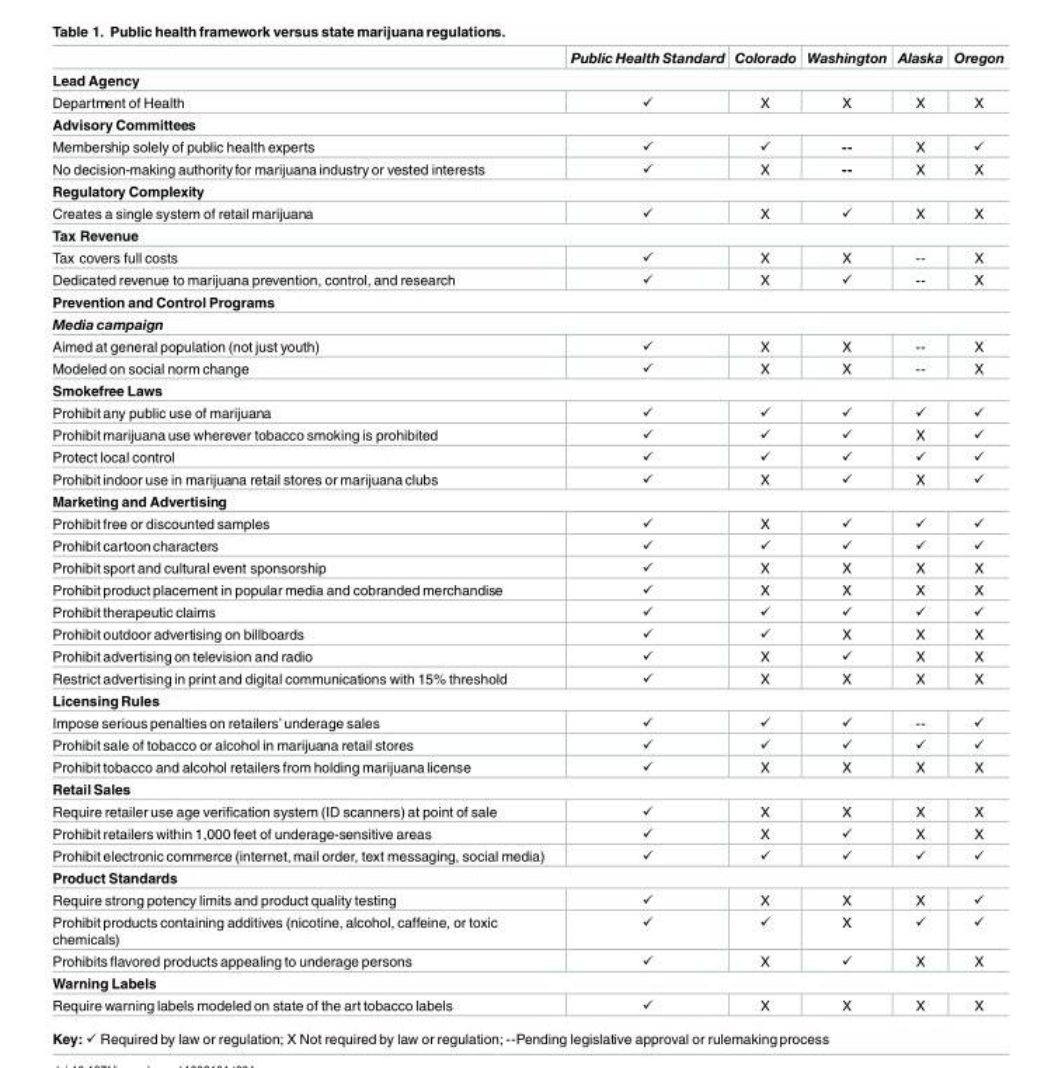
<table><thead><tr><td></td><td>Public Health Standard</td><td>Colorado</td><td>Washington</td><td>Alaska</td><td>Oregon</td></tr></thead><tbody><tr><td colspan="6">Lead Agency</td></tr><tr><td>Department of Health</td><td>✓</td><td>X</td><td>X</td><td>X</td><td>X</td></tr><tr><td colspan="6">Advisory Committees</td></tr><tr><td>Membership solely of public health experts</td><td>✓</td><td>✓</td><td>--</td><td>X</td><td>✓</td></tr><tr><td>No decision-making authority for marijuana industry or vested interests</td><td>✓</td><td>X</td><td>--</td><td>X</td><td>X</td></tr><tr><td colspan="6">Regulatory Complexity</td></tr><tr><td>Creates a single system of retail marijuana</td><td>✓</td><td>X</td><td>✓</td><td>X</td><td>X</td></tr><tr><td colspan="6">Tax Revenue</td></tr><tr><td>Tax covers full costs</td><td>✓</td><td>X</td><td>X</td><td>--</td><td>X</td></tr><tr><td>Dedicated revenue to marijuana prevention, control, and research</td><td>✓</td><td>X</td><td>✓</td><td>--</td><td>X</td></tr><tr><td colspan="6">Prevention and Control Programs</td></tr><tr><td colspan="6">Media campaign</td></tr><tr><td>Aimed at general population (not just youth)</td><td>✓</td><td>X</td><td>X</td><td>--</td><td>X</td></tr><tr><td>Modeled on social norm change</td><td>✓</td><td>X</td><td>X</td><td>--</td><td>X</td></tr><tr><td colspan="6">Smokefree Laws</td></tr><tr><td>Prohibit any public use of marijuana</td><td>✓</td><td>✓</td><td>✓</td><td>✓</td><td>✓</td></tr><tr><td>Prohibit marijuana use wherever tobacco smoking is prohibited</td><td>✓</td><td>✓</td><td>✓</td><td>X</td><td>✓</td></tr><tr><td>Protect local control</td><td>✓</td><td>✓</td><td>✓</td><td>✓</td><td>✓</td></tr><tr><td>Prohibit indoor use in marijuana retail stores or marijuana clubs</td><td>✓</td><td>X</td><td>✓</td><td>X</td><td>✓</td></tr><tr><td colspan="6">Marketing and Advertising</td></tr><tr><td>Prohibit free or discounted samples</td><td>✓</td><td>X</td><td>✓</td><td>✓</td><td>✓</td></tr><tr><td>Prohibit cartooncharacters</td><td>✓</td><td>✓</td><td>✓</td><td>✓</td><td>✓</td></tr><tr><td>Prohibit sport and cultural event sponsorship</td><td>✓</td><td>X</td><td>X</td><td>X</td><td>X</td></tr><tr><td>Prohibit product placement in popular media and cobranded merchandise</td><td>✓</td><td>X</td><td>X</td><td>X</td><td>X</td></tr><tr><td>Prohibit therapeutic claims</td><td>✓</td><td>✓</td><td>✓</td><td>✓</td><td>✓</td></tr><tr><td>Prohibit outdoor advertising on billboards</td><td>✓</td><td>✓</td><td>X</td><td>X</td><td>X</td></tr><tr><td>Prohibit advertising on television and radio</td><td>✓</td><td>X</td><td>✓</td><td>X</td><td>X</td></tr><tr><td>Restrict advertising in print and digital communications with 15% threshold</td><td>✓</td><td>X</td><td>X</td><td>X</td><td>X</td></tr><tr><td colspan="6">Licensing Rules</td></tr><tr><td>Impose serious penalties on retailers’ underage sales</td><td>✓</td><td>✓</td><td>✓</td><td>--</td><td>✓</td></tr><tr><td>Prohibit sale of tobacco or alcohol in marijuana retail stores</td><td>✓</td><td>✓</td><td>✓</td><td>✓</td><td>✓</td></tr><tr><td>Prohibit tobacco and alcohol retailers from holding marijuana license</td><td>✓</td><td>X</td><td>X</td><td>X</td><td>X</td></tr><tr><td colspan="6">Retail Sales</td></tr><tr><td>Require retailer use age verification system (ID scanners) at point of sale</td><td>✓</td><td>X</td><td>X</td><td>X</td><td>X</td></tr><tr><td>Prohibit retailers within 1,000 feet of underage-sensitive areas</td><td>✓</td><td>X</td><td>✓</td><td>X</td><td>X</td></tr><tr><td>Prohibit electronic commerce (internet,mail order, text messaging, social media)</td><td>✓</td><td>✓</td><td>✓</td><td>✓</td><td>✓</td></tr><tr><td colspan="6">Product Standards</td></tr><tr><td>Require strong potency limits and product quality testing</td><td>✓</td><td>X</td><td>X</td><td>X</td><td>✓</td></tr><tr><td>Prohibit products containing additives (nicotine, alcohol, caffeine, or toxic chemicals)</td><td>✓</td><td>✓</td><td>X</td><td>✓</td><td>✓</td></tr><tr><td>Prohibits flavored products appealing to underage persons</td><td>✓</td><td>X</td><td>✓</td><td>X</td><td>X</td></tr><tr><td colspan="6">Warning Labels</td></tr><tr><td>Require warning labels modeled on state of the art tobacco labels</td><td>✓</td><td>X</td><td>X</td><td>X</td><td>X</td></tr></tbody></table>